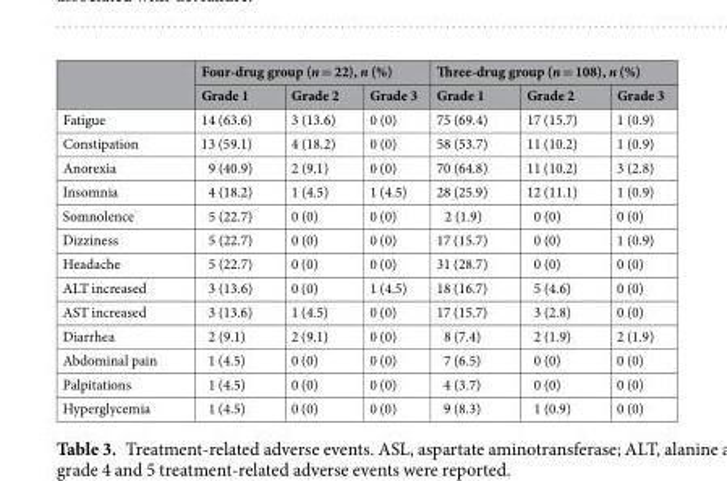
<table><thead><tr><td rowspan="2"></td><td colspan="3">Four-drug group (n = 22), n (%)</td><td colspan="3">Three-drug group (n = 108), n (%)</td></tr><tr><td>Grade 1</td><td>Grade 2</td><td>Grade 3</td><td>Grade 1</td><td>Grade 2</td><td>Grade 3</td></tr></thead><tbody><tr><td>Fatigue</td><td>14 (63.6)</td><td>3 (13.6)</td><td>0 (0)</td><td>75 (69.4)</td><td>17 (15.7)</td><td>1 (0.9)</td></tr><tr><td>Constipation</td><td>13 (59.1)</td><td>4 (18.2)</td><td>0 (0)</td><td>58 (53.7)</td><td>11 (10.2)</td><td>1 (0.9)</td></tr><tr><td>Anorexia</td><td>9 (40.9)</td><td>2 (9.1)</td><td>0 (0)</td><td>70 (64.8)</td><td>11 (10.2)</td><td>3 (2.8)</td></tr><tr><td>Insomnia</td><td>4 (18.2)</td><td>1 (4.5)</td><td>1 (4.5)</td><td>28 (25.9)</td><td>12 (11.1)</td><td>1 (0.9)</td></tr><tr><td>Somnolence</td><td>5 (22.7)</td><td>0 (0)</td><td>0 (0)</td><td>2 (1.9)</td><td>0 (0)</td><td>0 (0)</td></tr><tr><td>Dizziness</td><td>5 (22.7)</td><td>0 (0)</td><td>0 (0)</td><td>17 (15.7)</td><td>0 (0)</td><td>1 (0.9)</td></tr><tr><td>Headache</td><td>5 (22.7)</td><td>0 (0)</td><td>0 (0)</td><td>31 (28.7)</td><td>0 (0)</td><td>0 (0)</td></tr><tr><td>ALT increased</td><td>3 (13.6)</td><td>0 (0)</td><td>1 (4.5)</td><td>18 (16.7)</td><td>5 (4.6)</td><td>0 (0)</td></tr><tr><td>AST increased</td><td>3 (13.6)</td><td>1 (4.5)</td><td>0 (0)</td><td>17 (15.7)</td><td>3 (2.8)</td><td>0 (0)</td></tr><tr><td>Diarrhea</td><td>2 (9.1)</td><td>2 (9.1)</td><td>0 (0)</td><td>8 (7.4)</td><td>2 (1.9)</td><td>2 (1.9)</td></tr><tr><td>Abdominal pain</td><td>1 (4.5)</td><td>0 (0)</td><td>0 (0)</td><td>7 (6.5)</td><td>0 (0)</td><td>0 (0)</td></tr><tr><td>Palpitations</td><td>1 (4.5)</td><td>0 (0)</td><td>0 (0)</td><td>4 (3.7)</td><td>0 (0)</td><td>0 (0)</td></tr><tr><td>Hyperglycemia</td><td>1 (4.5)</td><td>0 (0)</td><td>0 (0)</td><td>9 (8.3)</td><td>1 (0.9)</td><td>0 (0)</td></tr></tbody></table>